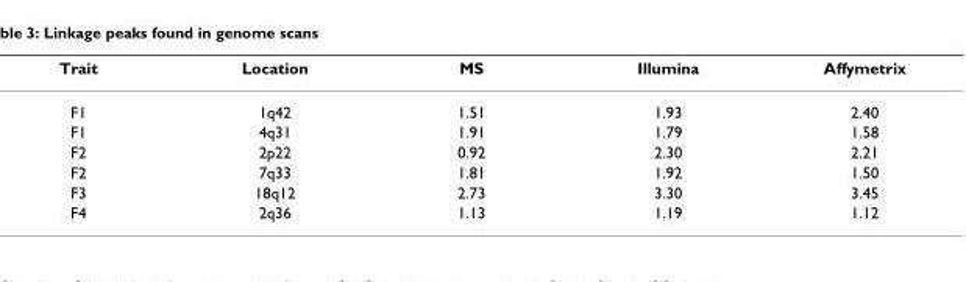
<table><thead><tr><td>Trait</td><td>Location</td><td>MS</td><td>Illumina</td><td>Affymetrix</td></tr></thead><tbody><tr><td>F1</td><td>1q42</td><td>1.51</td><td>1.93</td><td>2.40</td></tr><tr><td>F1</td><td>4q31</td><td>1.91</td><td>1.79</td><td>1.58</td></tr><tr><td>F2</td><td>2p22</td><td>0.92</td><td>2.30</td><td>2.21</td></tr><tr><td>F2</td><td>7q33</td><td>1.81</td><td>1.92</td><td>1.50</td></tr><tr><td>F3</td><td>18q12</td><td>2.73</td><td>3.30</td><td>3.45</td></tr><tr><td>F4</td><td>2q36</td><td>1.13</td><td>1.19</td><td>1.12</td></tr></tbody></table>